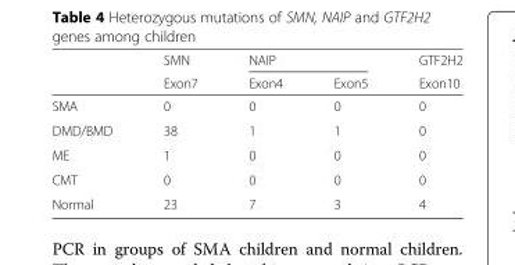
<table><thead><tr><td rowspan="2"></td><td rowspan="2">SMN Exon7</td><td colspan="2">NAIP</td><td rowspan="2">GTF2H2 Exon10</td></tr><tr><td>Exon4</td><td>Exon5</td></tr></thead><tbody><tr><td>SMA</td><td>0</td><td>0</td><td>0</td><td>0</td></tr><tr><td>DMD/BMD</td><td>38</td><td>1</td><td>1</td><td>0</td></tr><tr><td>ME</td><td>1</td><td>0</td><td>0</td><td>0</td></tr><tr><td>CMT</td><td>0</td><td>0</td><td>0</td><td>0</td></tr><tr><td>Normal</td><td>23</td><td>7</td><td>3</td><td>4</td></tr></tbody></table>